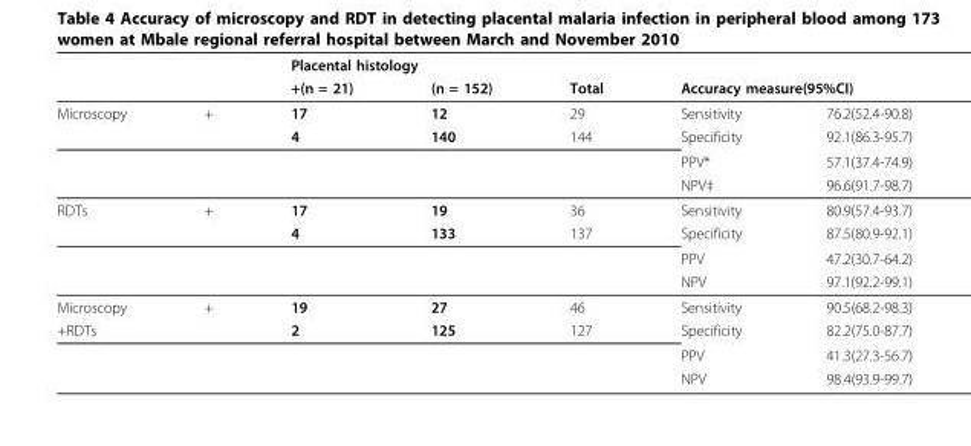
<table><thead><tr><td rowspan="2"></td><td rowspan="2"></td><td colspan="2">Placental histology</td><td rowspan="2">Total</td><td></td><td></td></tr><tr><td>+(n = 21)</td><td>(n = 152)</td><td colspan="2">Accuracy measure(95%CI)</td></tr></thead><tbody><tr><td rowspan="4">Microscopy</td><td>+</td><td>17</td><td>12</td><td>29</td><td>Sensitivity</td><td>76.2(52.4-90.8)</td></tr><tr><td></td><td>4</td><td>140</td><td>144</td><td>Specificity</td><td>92.1(86.3-95.7)</td></tr><tr><td></td><td></td><td></td><td></td><td>PPV*</td><td>57.1(37.4-74.9)</td></tr><tr><td></td><td></td><td></td><td></td><td>NPV‡</td><td>96.6(91.7-98.7)</td></tr><tr><td rowspan="4">RDTs</td><td>+</td><td>17</td><td>19</td><td>36</td><td>Sensitivity</td><td>80.9(57.4-93.7)</td></tr><tr><td></td><td>4</td><td>133</td><td>137</td><td>Specificity</td><td>87.5(80.9-92.1)</td></tr><tr><td></td><td></td><td></td><td></td><td>PPV</td><td>47.2(30.7-64.2)</td></tr><tr><td></td><td></td><td></td><td></td><td>NPV</td><td>97.1(92.2-99.1)</td></tr><tr><td>Microscopy</td><td>+</td><td>19</td><td>27</td><td>46</td><td>Sensitivity</td><td>90.5(68.2-98.3)</td></tr><tr><td rowspan="3">+RDTs</td><td></td><td>2</td><td>125</td><td>127</td><td>Specificity</td><td>82.2(75.0-87.7)</td></tr><tr><td></td><td></td><td></td><td></td><td>PPV</td><td>41.3(27.3-56.7)</td></tr><tr><td></td><td></td><td></td><td></td><td>NPV</td><td>98.4(93.9-99.7)</td></tr></tbody></table>